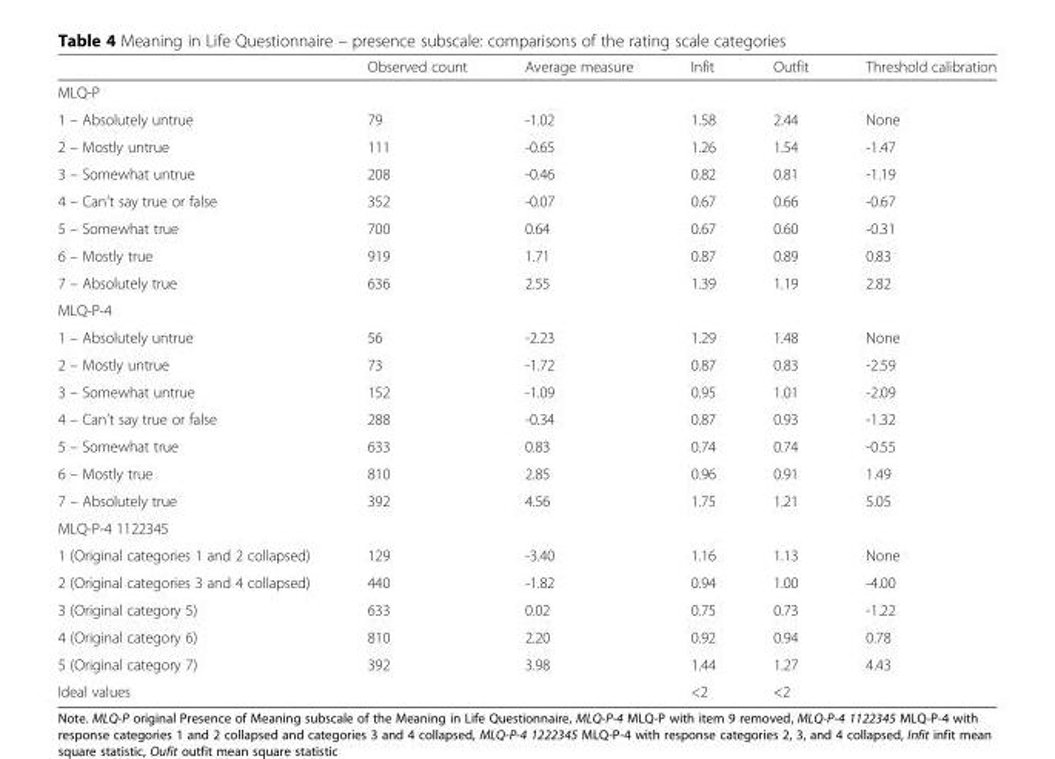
<table><thead><tr><td></td><td>Observed count</td><td>Average measure</td><td>Infit</td><td>Outfit</td><td>Threshold calibration</td></tr></thead><tbody><tr><td colspan="6">MLQ-P</td></tr><tr><td>1 – Absolutely untrue</td><td>79</td><td>-1.02</td><td>1.58</td><td>2.44</td><td>None</td></tr><tr><td>2 – Mostly untrue</td><td>111</td><td>-0.65</td><td>1.26</td><td>1.54</td><td>-1.47</td></tr><tr><td>3 – Somewhat untrue</td><td>208</td><td>-0.46</td><td>0.82</td><td>0.81</td><td>-1.19</td></tr><tr><td>4 – Can’t say true or false</td><td>352</td><td>-0.07</td><td>0.67</td><td>0.66</td><td>-0.67</td></tr><tr><td>5 – Somewhat true</td><td>700</td><td>0.64</td><td>0.67</td><td>0.60</td><td>-0.31</td></tr><tr><td>6 – Mostly true</td><td>919</td><td>1.71</td><td>0.87</td><td>0.89</td><td>0.83</td></tr><tr><td>7 – Absolutely true</td><td>636</td><td>2.55</td><td>1.39</td><td>1.19</td><td>2.82</td></tr><tr><td colspan="6">MLQ-P-4</td></tr><tr><td>1 – Absolutely untrue</td><td>56</td><td>-2.23</td><td>1.29</td><td>1.48</td><td>None</td></tr><tr><td>2 – Mostly untrue</td><td>73</td><td>-1.72</td><td>0.87</td><td>0.83</td><td>-2.59</td></tr><tr><td>3 – Somewhat untrue</td><td>152</td><td>-1.09</td><td>0.95</td><td>1.01</td><td>-2.09</td></tr><tr><td>4 – Can’t say true or false</td><td>288</td><td>-0.34</td><td>0.87</td><td>0.93</td><td>-1.32</td></tr><tr><td>5 – Somewhat true</td><td>633</td><td>0.83</td><td>0.74</td><td>0.74</td><td>-0.55</td></tr><tr><td>6 – Mostly true</td><td>810</td><td>2.85</td><td>0.96</td><td>0.91</td><td>1.49</td></tr><tr><td>7 – Absolutely true</td><td>392</td><td>4.56</td><td>1.75</td><td>1.21</td><td>5.05</td></tr><tr><td colspan="6">MLQ-P-4 1122345</td></tr><tr><td>1 (Original categories 1 and 2 collapsed)</td><td>129</td><td>-3.40</td><td>1.16</td><td>1.13</td><td>None</td></tr><tr><td>2 (Original categories 3 and 4 collapsed)</td><td>440</td><td>-1.82</td><td>0.94</td><td>1.00</td><td>-4.00</td></tr><tr><td>3 (Original category 5)</td><td>633</td><td>0.02</td><td>0.75</td><td>0.73</td><td>-1.22</td></tr><tr><td>4 (Original category 6)</td><td>810</td><td>2.20</td><td>0.92</td><td>0.94</td><td>0.78</td></tr><tr><td>5 (Original category 7)</td><td>392</td><td>3.98</td><td>1.44</td><td>1.27</td><td>4.43</td></tr><tr><td>Ideal values</td><td></td><td></td><td>&lt;2</td><td>&lt;2</td><td></td></tr></tbody></table>